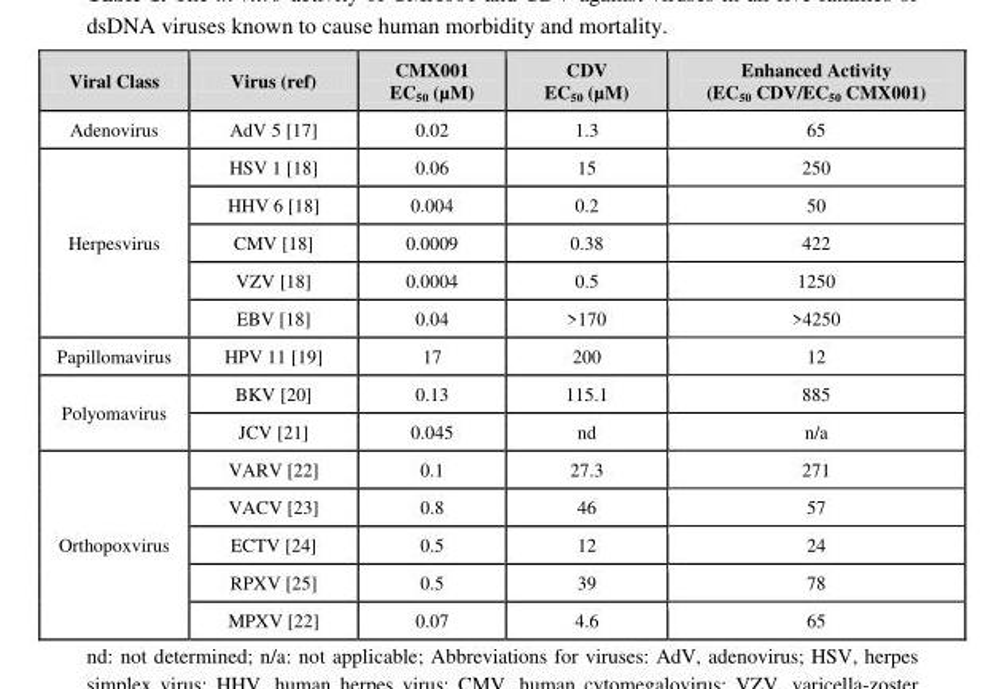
<table><thead><tr><td>Viral Class</td><td>Virus (ref)</td><td>CMX001 EC<sub>50</sub> (µM)</td><td>CDV EC<sub>50</sub> (µM)</td><td>Enhanced Activity (EC<sub>50</sub> CDV/EC<sub>50</sub> CMX001)</td></tr></thead><tbody><tr><td>Adenovirus</td><td>AdV 5 [17]</td><td>0.02</td><td>1.3</td><td>65</td></tr><tr><td rowspan="5">Herpesvirus</td><td>HSV 1 [18]</td><td>0.06</td><td>15</td><td>250</td></tr><tr><td>HHV 6 [18]</td><td>0.004</td><td>0.2</td><td>50</td></tr><tr><td>CMV [18]</td><td>0.0009</td><td>0.38</td><td>422</td></tr><tr><td>VZV [18]</td><td>0.0004</td><td>0.5</td><td>1250</td></tr><tr><td>EBV [18]</td><td>0.04</td><td>&gt;170</td><td>&gt;4250</td></tr><tr><td>Papillomavirus</td><td>HPV 11 [19]</td><td>17</td><td>200</td><td>12</td></tr><tr><td rowspan="2">Polyomavirus</td><td>BKV [20]</td><td>0.13</td><td>115.1</td><td>885</td></tr><tr><td>JCV [21]</td><td>0.045</td><td>nd</td><td>n/a</td></tr><tr><td rowspan="5">Orthopoxvirus</td><td>VARV [22]</td><td>0.1</td><td>27.3</td><td>271</td></tr><tr><td>VACV [23]</td><td>0.8</td><td>46</td><td>57</td></tr><tr><td>ECTV [24]</td><td>0.5</td><td>12</td><td>24</td></tr><tr><td>RPXV [25]</td><td>0.5</td><td>39</td><td>78</td></tr><tr><td>MPXV [22]</td><td>0.07</td><td>4.6</td><td>65</td></tr></tbody></table>